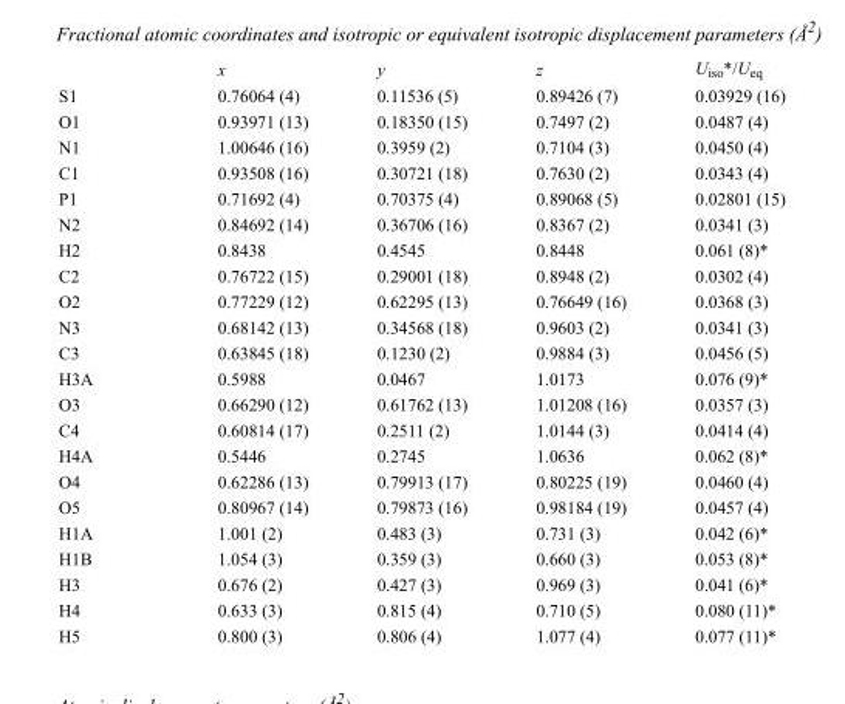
<table><thead><tr><td></td><td>x</td><td>y</td><td>z</td><td>U<sub>iso</sub>*/U<sub>eq</sub></td></tr></thead><tbody><tr><td>S1</td><td>0.76064 (4)</td><td>0.11536 (5)</td><td>0.89426 (7)</td><td>0.03929 (16)</td></tr><tr><td>O1</td><td>0.93971 (13)</td><td>0.18350 (15)</td><td>0.7497 (2)</td><td>0.0487 (4)</td></tr><tr><td>N1</td><td>1.00646 (16)</td><td>0.3959 (2)</td><td>0.7104 (3)</td><td>0.0450 (4)</td></tr><tr><td>C1</td><td>0.93508 (16)</td><td>0.30721 (18)</td><td>0.7630 (2)</td><td>0.0343 (4)</td></tr><tr><td>P1</td><td>0.71692 (4)</td><td>0.70375 (4)</td><td>0.89068 (5)</td><td>0.02801 (15)</td></tr><tr><td>N2</td><td>0.84692 (14)</td><td>0.36706 (16)</td><td>0.8367 (2)</td><td>0.0341 (3)</td></tr><tr><td>H2</td><td>0.8438</td><td>0.4545</td><td>0.8448</td><td>0.061 (8)*</td></tr><tr><td>C2</td><td>0.76722 (15)</td><td>0.29001 (18)</td><td>0.8948 (2)</td><td>0.0302 (4)</td></tr><tr><td>O2</td><td>0.77229 (12)</td><td>0.62295 (13)</td><td>0.76649 (16)</td><td>0.0368 (3)</td></tr><tr><td>N3</td><td>0.68142 (13)</td><td>0.34568 (18)</td><td>0.9603 (2)</td><td>0.0341 (3)</td></tr><tr><td>C3</td><td>0.63845 (18)</td><td>0.1230 (2)</td><td>0.9884 (3)</td><td>0.0456 (5)</td></tr><tr><td>H3A</td><td>0.5988</td><td>0.0467</td><td>1.0173</td><td>0.076 (9)*</td></tr><tr><td>O3</td><td>0.66290 (12)</td><td>0.61762 (13)</td><td>1.01208 (16)</td><td>0.0357 (3)</td></tr><tr><td>C4</td><td>0.60814 (17)</td><td>0.2511 (2)</td><td>1.0144 (3)</td><td>0.0414 (4)</td></tr><tr><td>H4A</td><td>0.5446</td><td>0.2745</td><td>1.0636</td><td>0.062 (8)*</td></tr><tr><td>O4</td><td>0.62286 (13)</td><td>0.79913 (17)</td><td>0.80225 (19)</td><td>0.0460 (4)</td></tr><tr><td>O5</td><td>0.80967 (14)</td><td>0.79873 (16)</td><td>0.98184 (19)</td><td>0.0457 (4)</td></tr><tr><td>H1A</td><td>1.001 (2)</td><td>0.483 (3)</td><td>0.731 (3)</td><td>0.042 (6)*</td></tr><tr><td>H1B</td><td>1.054 (3)</td><td>0.359 (3)</td><td>0.660 (3)</td><td>0.053 (8)*</td></tr><tr><td>H3</td><td>0.676 (2)</td><td>0.427 (3)</td><td>0.969 (3)</td><td>0.041 (6)*</td></tr><tr><td>H4</td><td>0.633 (3)</td><td>0.815 (4)</td><td>0.710 (5)</td><td>0.080 (11)*</td></tr><tr><td>H5</td><td>0.800 (3)</td><td>0.806 (4)</td><td>1.077 (4)</td><td>0.077 (11)*</td></tr></tbody></table>